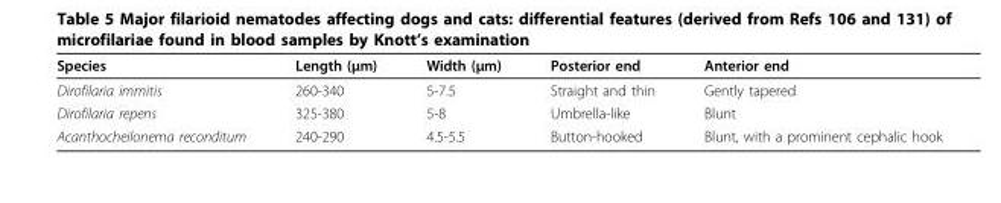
<table><thead><tr><td>Species</td><td>Length (μm)</td><td>Width (μm)</td><td>Posterior end</td><td>Anterior end</td></tr></thead><tbody><tr><td>Dirofilaria immitis</td><td>260-340</td><td>5-7.5</td><td>Straight and thin</td><td>Gently tapered</td></tr><tr><td>Dirofilaria repens</td><td>325-380</td><td>5-8</td><td>Umbrella-like</td><td>Blunt</td></tr><tr><td>Acanthocheilonema reconditum</td><td>240-290</td><td>4.5-5.5</td><td>Button-hooked</td><td>Blunt, with a prominent cephalic hook</td></tr></tbody></table>